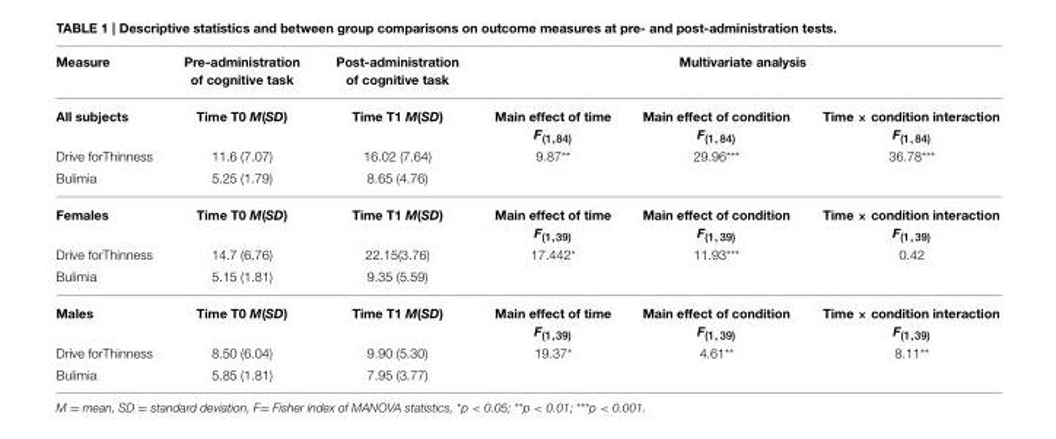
<table><thead><tr><td rowspan="2">Measure All subjects</td><td rowspan="2">Pre-administration of cognitive task Time T0 M(SD)</td><td rowspan="2">Post-administration of cognitive task Time T1 M(SD)</td><td colspan="3">Multivariate analysis</td></tr><tr><td>Main effect of time F<sub>(1,84)</sub></td><td>Main effect of condition F<sub>(1,84)</sub></td><td>Time × condition interaction F<sub>(1,84)</sub></td></tr></thead><tbody><tr><td>Drive forThinness</td><td>11.6 (7.07)</td><td>16.02 (7.64)</td><td>9.87**</td><td>29.96***</td><td>36.78***</td></tr><tr><td>Bulimia</td><td>5.25 (1.79)</td><td>8.65 (4.76)</td><td></td><td></td><td></td></tr><tr><td>Females</td><td>Time T0 M(SD)</td><td>Time T1 M(SD)</td><td>Main effect of time F<sub>(1,39)</sub></td><td>Main effect of condition F<sub>(1,39)</sub></td><td>Time × condition interaction F<sub>(1,39)</sub></td></tr><tr><td>Drive forThinness</td><td>14.7 (6.76)</td><td>22.15(3.76)</td><td>17.442*</td><td>11.93***</td><td>0.42</td></tr><tr><td>Bulimia</td><td>5.15 (1.81)</td><td>9.35 (5.59)</td><td></td><td></td><td></td></tr><tr><td>Males</td><td>Time T0 M(SD)</td><td>Time T1 M(SD)</td><td>Main effect of time F<sub>(1,39)</sub></td><td>Main effect of condition F<sub>(1,39)</sub></td><td>Time × condition interaction F<sub>(1,39)</sub></td></tr><tr><td>Drive forThinness</td><td>8.50 (6.04)</td><td>9.90 (5.30)</td><td>19.37*</td><td>4.61**</td><td>8.11**</td></tr><tr><td>Bulimia</td><td>5.85 (1.81)</td><td>7.95 (3.77)</td><td></td><td></td><td></td></tr></tbody></table>